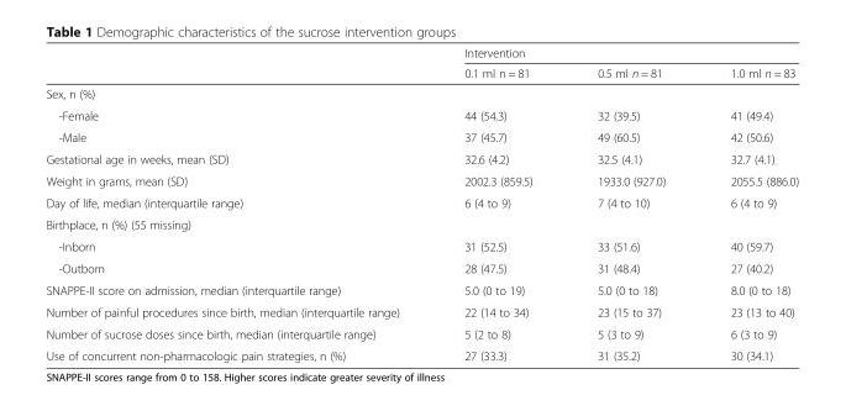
<table><thead><tr><td rowspan="2"></td><td colspan="3">Intervention</td></tr><tr><td>0.1 ml n = 81</td><td>0.5 ml n = 81</td><td>1.0 ml n = 83</td></tr></thead><tbody><tr><td colspan="4">Sex, n (%)</td></tr><tr><td>-Female</td><td>44 (54.3)</td><td>32 (39.5)</td><td>41 (49.4)</td></tr><tr><td>-Male</td><td>37 (45.7)</td><td>49 (60.5)</td><td>42 (50.6)</td></tr><tr><td>Gestational age in weeks, mean (SD)</td><td>32.6 (4.2)</td><td>32.5 (4.1)</td><td>32.7 (4.1)</td></tr><tr><td>Weight in grams, mean (SD)</td><td>2002.3 (859.5)</td><td>1933.0 (927.0)</td><td>2055.5 (886.0)</td></tr><tr><td>Day of life, median (interquartile range)</td><td>6 (4 to 9)</td><td>7 (4 to 10)</td><td>6 (4 to 9)</td></tr><tr><td colspan="4">Birthplace, n (%) (55 missing)</td></tr><tr><td>-Inborn</td><td>31 (52.5)</td><td>33 (51.6)</td><td>40 (59.7)</td></tr><tr><td>-Outborn</td><td>28 (47.5)</td><td>31 (48.4)</td><td>27 (40.2)</td></tr><tr><td>SNAPPE-II score on admission, median (interquartile range)</td><td>5.0 (0 to 19)</td><td>5.0 (0 to 18)</td><td>8.0 (0 to 18)</td></tr><tr><td>Number of painful procedures since birth, median (interquartile range)</td><td>22 (14 to 34)</td><td>23 (15 to 37)</td><td>23 (13 to 40)</td></tr><tr><td>Number of sucrose doses since birth, median (interquartile range)</td><td>5 (2 to 8)</td><td>5 (3 to 9)</td><td>6 (3 to 9)</td></tr><tr><td>Use of concurrent non-pharmacologic pain strategies, n (%)</td><td>27 (33.3)</td><td>31 (35.2)</td><td>30 (34.1)</td></tr></tbody></table>